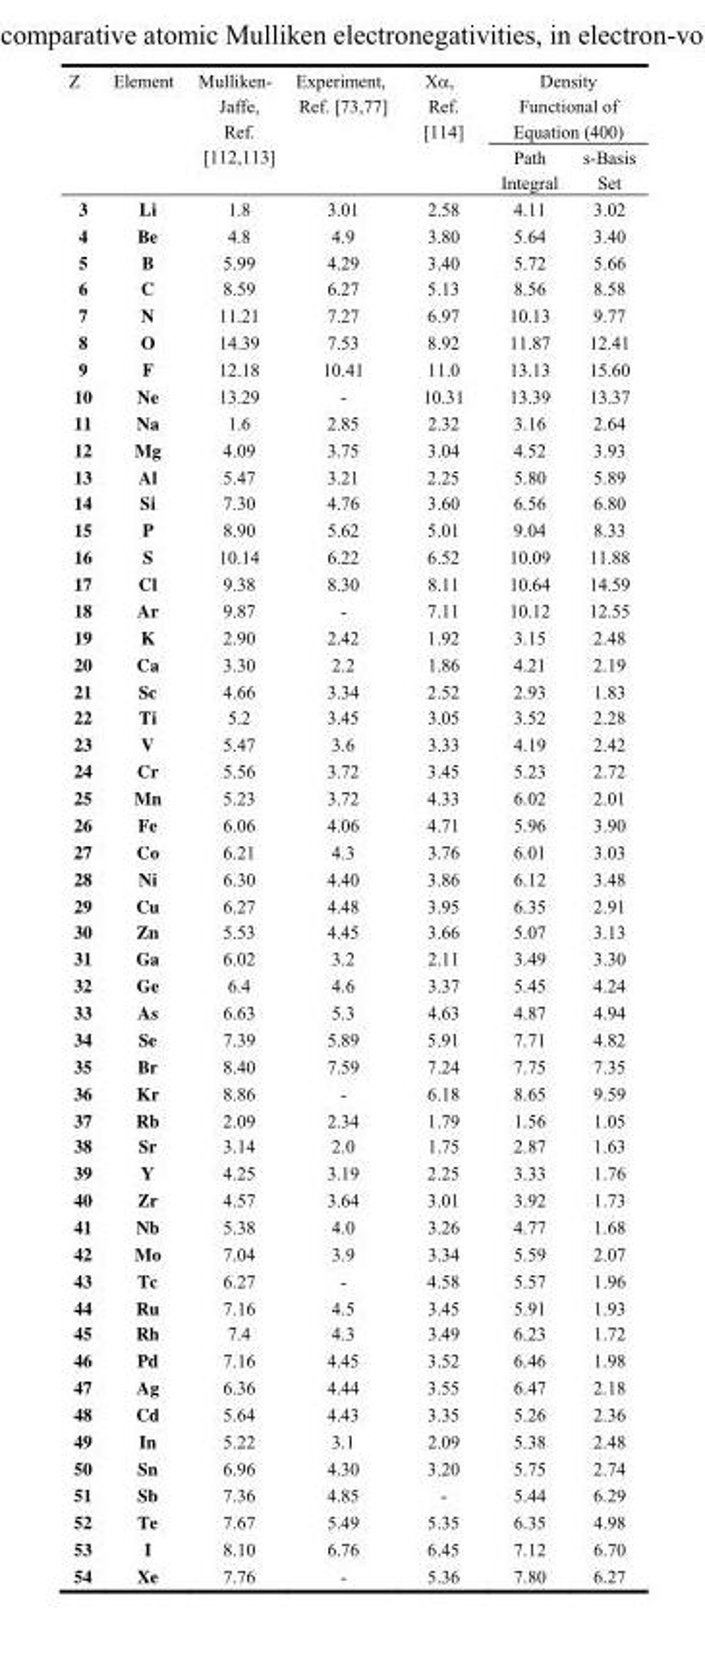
<table><thead><tr><td rowspan="2">Z</td><td rowspan="2">Element</td><td rowspan="2">Mulliken- Jaffe, Ref. [112,113]</td><td rowspan="2">Experiment, Ref. [73,77]</td><td rowspan="2">Xα, Ref. [114]</td><td colspan="2">Density Functional of Equation (400)</td></tr><tr><td>Path Integral</td><td>s-Basis Set</td></tr></thead><tbody><tr><td>3</td><td>Li</td><td>1.8</td><td>3.01</td><td>2.58</td><td>4.11</td><td>3.02</td></tr><tr><td>4</td><td>Be</td><td>4.8</td><td>4.9</td><td>3.80</td><td>5.64</td><td>3.40</td></tr><tr><td>5</td><td>B</td><td>5.99</td><td>4.29</td><td>3.40</td><td>5.72</td><td>5.66</td></tr><tr><td>6</td><td>C</td><td>8.59</td><td>6.27</td><td>5.13</td><td>8.56</td><td>8.58</td></tr><tr><td>7</td><td>N</td><td>11.21</td><td>7.27</td><td>6.97</td><td>10.13</td><td>9.77</td></tr><tr><td>8</td><td>O</td><td>14.39</td><td>7.53</td><td>8.92</td><td>11.87</td><td>12.41</td></tr><tr><td>9</td><td>F</td><td>12.18</td><td>10.41</td><td>11.0</td><td>13.13</td><td>15.60</td></tr><tr><td>10</td><td>Ne</td><td>13.29</td><td>-</td><td>10.31</td><td>13.39</td><td>13.37</td></tr><tr><td>11</td><td>Na</td><td>1.6</td><td>2.85</td><td>2.32</td><td>3.16</td><td>2.64</td></tr><tr><td>12</td><td>Mg</td><td>4.09</td><td>3.75</td><td>3.04</td><td>4.52</td><td>3.93</td></tr><tr><td>13</td><td>Al</td><td>5.47</td><td>3.21</td><td>2.25</td><td>5.80</td><td>5.89</td></tr><tr><td>14</td><td>Si</td><td>7.30</td><td>4.76</td><td>3.60</td><td>6.56</td><td>6.80</td></tr><tr><td>15</td><td>P</td><td>8.90</td><td>5.62</td><td>5.01</td><td>9.04</td><td>8.33</td></tr><tr><td>16</td><td>S</td><td>10.14</td><td>6.22</td><td>6.52</td><td>10.09</td><td>11.88</td></tr><tr><td>17</td><td>Cl</td><td>9.38</td><td>8.30</td><td>8.11</td><td>10.64</td><td>14.59</td></tr><tr><td>18</td><td>Ar</td><td>9.87</td><td>-</td><td>7.11</td><td>10.12</td><td>12.55</td></tr><tr><td>19</td><td>K</td><td>2.90</td><td>2.42</td><td>1.92</td><td>3.15</td><td>2.48</td></tr><tr><td>20</td><td>Ca</td><td>3.30</td><td>2.2</td><td>1.86</td><td>4.21</td><td>2.19</td></tr><tr><td>21</td><td>Sc</td><td>4.66</td><td>3.34</td><td>2.52</td><td>2.93</td><td>1.83</td></tr><tr><td>22</td><td>Ti</td><td>5.2</td><td>3.45</td><td>3.05</td><td>3.52</td><td>2.28</td></tr><tr><td>23</td><td>V</td><td>5.47</td><td>3.6</td><td>3.33</td><td>4.19</td><td>2.42</td></tr><tr><td>24</td><td>Cr</td><td>5.56</td><td>3.72</td><td>3.45</td><td>5.23</td><td>2.72</td></tr><tr><td>25</td><td>Mn</td><td>5.23</td><td>3.72</td><td>4.33</td><td>6.02</td><td>2.01</td></tr><tr><td>26</td><td>Fe</td><td>6.06</td><td>4.06</td><td>4.71</td><td>5.96</td><td>3.90</td></tr><tr><td>27</td><td>Co</td><td>6.21</td><td>4.3</td><td>3.76</td><td>6.01</td><td>3.03</td></tr><tr><td>28</td><td>Ni</td><td>6.30</td><td>4.40</td><td>3.86</td><td>6.12</td><td>3.48</td></tr><tr><td>29</td><td>Cu</td><td>6.27</td><td>4.48</td><td>3.95</td><td>6.35</td><td>2.91</td></tr><tr><td>30</td><td>Zn</td><td>5.53</td><td>4.45</td><td>3.66</td><td>5.07</td><td>3.13</td></tr><tr><td>31</td><td>Ga</td><td>6.02</td><td>3.2</td><td>2.11</td><td>3.49</td><td>3.30</td></tr><tr><td>32</td><td>Ge</td><td>6.4</td><td>4.6</td><td>3.37</td><td>5.45</td><td>4.24</td></tr><tr><td>33</td><td>As</td><td>6.63</td><td>5.3</td><td>4.63</td><td>4.87</td><td>4.94</td></tr><tr><td>34</td><td>Se</td><td>7.39</td><td>5.89</td><td>5.91</td><td>7.71</td><td>4.82</td></tr><tr><td>35</td><td>Br</td><td>8.40</td><td>7.59</td><td>7.24</td><td>7.75</td><td>7.35</td></tr><tr><td>36</td><td>Kr</td><td>8.86</td><td>-</td><td>6.18</td><td>8.65</td><td>9.59</td></tr><tr><td>37</td><td>Rb</td><td>2.09</td><td>2.34</td><td>1.79</td><td>1.56</td><td>1.05</td></tr><tr><td>38</td><td>Sr</td><td>3.14</td><td>2.0</td><td>1.75</td><td>2.87</td><td>1.63</td></tr><tr><td>39</td><td>Y</td><td>4.25</td><td>3.19</td><td>2.25</td><td>3.33</td><td>1.76</td></tr><tr><td>40</td><td>Zr</td><td>4.57</td><td>3.64</td><td>3.01</td><td>3.92</td><td>1.73</td></tr><tr><td>41</td><td>Nb</td><td>5.38</td><td>4.0</td><td>3.26</td><td>4.77</td><td>1.68</td></tr><tr><td>42</td><td>Mo</td><td>7.04</td><td>3.9</td><td>3.34</td><td>5.59</td><td>2.07</td></tr><tr><td>43</td><td>Tc</td><td>6.27</td><td>-</td><td>4.58</td><td>5.57</td><td>1.96</td></tr><tr><td>44</td><td>Ru</td><td>7.16</td><td>4.5</td><td>3.45</td><td>5.91</td><td>1.93</td></tr><tr><td>45</td><td>Rh</td><td>7.4</td><td>4.3</td><td>3.49</td><td>6.23</td><td>1.72</td></tr><tr><td>46</td><td>Pd</td><td>7.16</td><td>4.45</td><td>3.52</td><td>6.46</td><td>1.98</td></tr><tr><td>47</td><td>Ag</td><td>6.36</td><td>4.44</td><td>3.55</td><td>6.47</td><td>2.18</td></tr><tr><td>48</td><td>Cd</td><td>5.64</td><td>4.43</td><td>3.35</td><td>5.26</td><td>2.36</td></tr><tr><td>49</td><td>In</td><td>5.22</td><td>3.1</td><td>2.09</td><td>5.38</td><td>2.48</td></tr><tr><td>50</td><td>Sn</td><td>6.96</td><td>4.30</td><td>3.20</td><td>5.75</td><td>2.74</td></tr><tr><td>51</td><td>Sb</td><td>7.36</td><td>4.85</td><td>-</td><td>5.44</td><td>6.29</td></tr><tr><td>52</td><td>Te</td><td>7.67</td><td>5.49</td><td>5.35</td><td>6.35</td><td>4.98</td></tr><tr><td>53</td><td>I</td><td>8.10</td><td>6.76</td><td>6.45</td><td>7.12</td><td>6.70</td></tr><tr><td>54</td><td>Xe</td><td>7.76</td><td>-</td><td>5.36</td><td>7.80</td><td>6.27</td></tr></tbody></table>